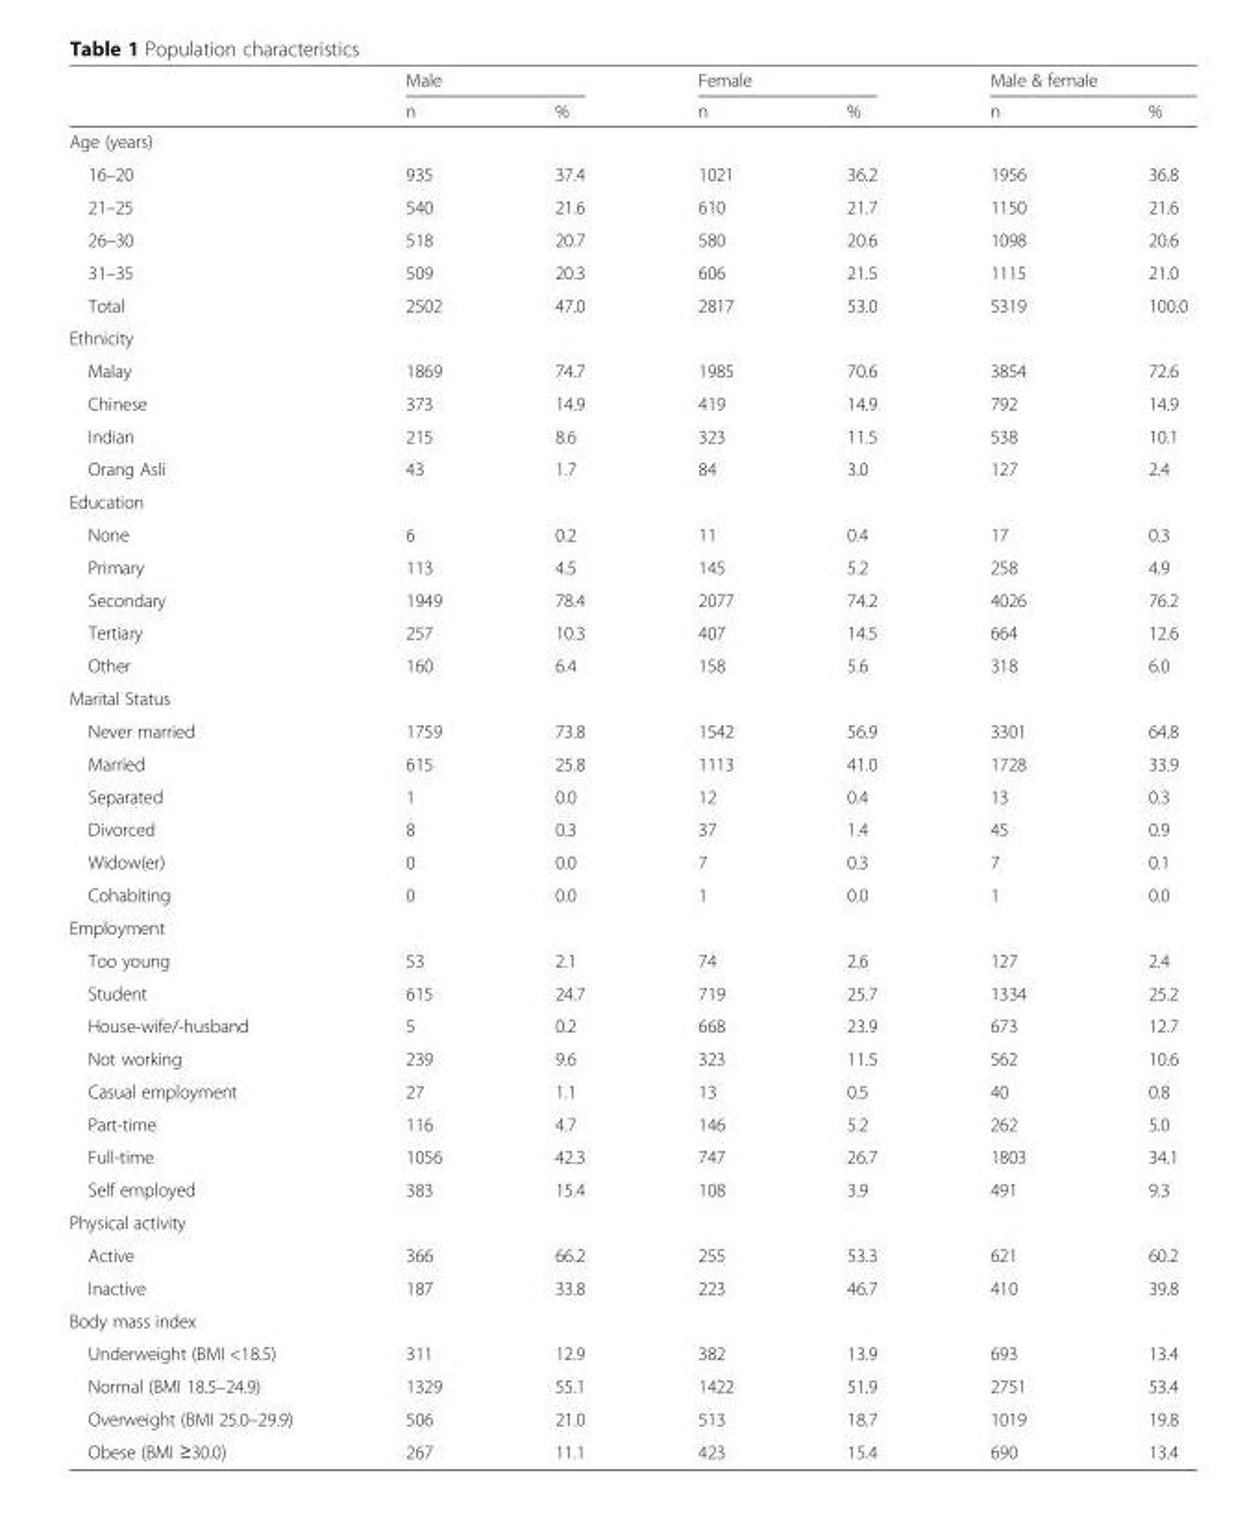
<table><thead><tr><td rowspan="2"></td><td colspan="2">Male</td><td colspan="2">Female</td><td colspan="2">Male &amp; female</td></tr><tr><td>n</td><td>%</td><td>n</td><td>%</td><td>n</td><td>%</td></tr></thead><tbody><tr><td colspan="7">Age (years)</td></tr><tr><td>16–20</td><td>935</td><td>37.4</td><td>1021</td><td>36.2</td><td>1956</td><td>36.8</td></tr><tr><td>21–25</td><td>540</td><td>21.6</td><td>610</td><td>21.7</td><td>1150</td><td>21.6</td></tr><tr><td>26–30</td><td>518</td><td>20.7</td><td>580</td><td>20.6</td><td>1098</td><td>20.6</td></tr><tr><td>31–35</td><td>509</td><td>20.3</td><td>606</td><td>21.5</td><td>1115</td><td>21.0</td></tr><tr><td>Total</td><td>2502</td><td>47.0</td><td>2817</td><td>53.0</td><td>5319</td><td>100.0</td></tr><tr><td colspan="7">Ethnicity</td></tr><tr><td>Malay</td><td>1869</td><td>74.7</td><td>1985</td><td>70.6</td><td>3854</td><td>72.6</td></tr><tr><td>Chinese</td><td>373</td><td>14.9</td><td>419</td><td>14.9</td><td>792</td><td>14.9</td></tr><tr><td>Indian</td><td>215</td><td>8.6</td><td>323</td><td>11.5</td><td>538</td><td>10.1</td></tr><tr><td>Orang Asli</td><td>43</td><td>1.7</td><td>84</td><td>3.0</td><td>127</td><td>2.4</td></tr><tr><td colspan="7">Education</td></tr><tr><td>None</td><td>6</td><td>0.2</td><td>11</td><td>0.4</td><td>17</td><td>0.3</td></tr><tr><td>Primary</td><td>113</td><td>4.5</td><td>145</td><td>5.2</td><td>258</td><td>4.9</td></tr><tr><td>Secondary</td><td>1949</td><td>78.4</td><td>2077</td><td>74.2</td><td>4026</td><td>76.2</td></tr><tr><td>Tertiary</td><td>257</td><td>10.3</td><td>407</td><td>14.5</td><td>664</td><td>12.6</td></tr><tr><td>Other</td><td>160</td><td>6.4</td><td>158</td><td>5.6</td><td>318</td><td>6.0</td></tr><tr><td colspan="7">Marital Status</td></tr><tr><td>Never married</td><td>1759</td><td>73.8</td><td>1542</td><td>56.9</td><td>3301</td><td>64.8</td></tr><tr><td>Married</td><td>615</td><td>25.8</td><td>1113</td><td>41.0</td><td>1728</td><td>33.9</td></tr><tr><td>Separated</td><td>1</td><td>0.0</td><td>12</td><td>0.4</td><td>13</td><td>0.3</td></tr><tr><td>Divorced</td><td>8</td><td>0.3</td><td>37</td><td>1.4</td><td>45</td><td>0.9</td></tr><tr><td>Widow(er)</td><td>0</td><td>0.0</td><td>7</td><td>0.3</td><td>7</td><td>0.1</td></tr><tr><td>Cohabiting</td><td>0</td><td>0.0</td><td>1</td><td>0.0</td><td>1</td><td>0.0</td></tr><tr><td colspan="7">Employment</td></tr><tr><td>Too young</td><td>53</td><td>2.1</td><td>74</td><td>2.6</td><td>127</td><td>2.4</td></tr><tr><td>Student</td><td>615</td><td>24.7</td><td>719</td><td>25.7</td><td>1334</td><td>25.2</td></tr><tr><td>House-wife/-husband</td><td>5</td><td>0.2</td><td>668</td><td>23.9</td><td>673</td><td>12.7</td></tr><tr><td>Not working</td><td>239</td><td>9.6</td><td>323</td><td>11.5</td><td>562</td><td>10.6</td></tr><tr><td>Casual employment</td><td>27</td><td>1.1</td><td>13</td><td>0.5</td><td>40</td><td>0.8</td></tr><tr><td>Part-time</td><td>116</td><td>4.7</td><td>146</td><td>5.2</td><td>262</td><td>5.0</td></tr><tr><td>Full-time</td><td>1056</td><td>42.3</td><td>747</td><td>26.7</td><td>1803</td><td>34.1</td></tr><tr><td>Self employed</td><td>383</td><td>15.4</td><td>108</td><td>3.9</td><td>491</td><td>9.3</td></tr><tr><td colspan="7">Physical activity</td></tr><tr><td>Active</td><td>366</td><td>66.2</td><td>255</td><td>53.3</td><td>621</td><td>60.2</td></tr><tr><td>Inactive</td><td>187</td><td>33.8</td><td>223</td><td>46.7</td><td>410</td><td>39.8</td></tr><tr><td colspan="7">Body mass index</td></tr><tr><td>Underweight (BMI &lt;18.5)</td><td>311</td><td>12.9</td><td>382</td><td>13.9</td><td>693</td><td>13.4</td></tr><tr><td>Normal (BMI 18.5–24.9)</td><td>1329</td><td>55.1</td><td>1422</td><td>51.9</td><td>2751</td><td>53.4</td></tr><tr><td>Overweight (BMI 25.0–29.9)</td><td>506</td><td>21.0</td><td>513</td><td>18.7</td><td>1019</td><td>19.8</td></tr><tr><td>Obese (BMI ≥30.0)</td><td>267</td><td>11.1</td><td>423</td><td>15.4</td><td>690</td><td>13.4</td></tr></tbody></table>